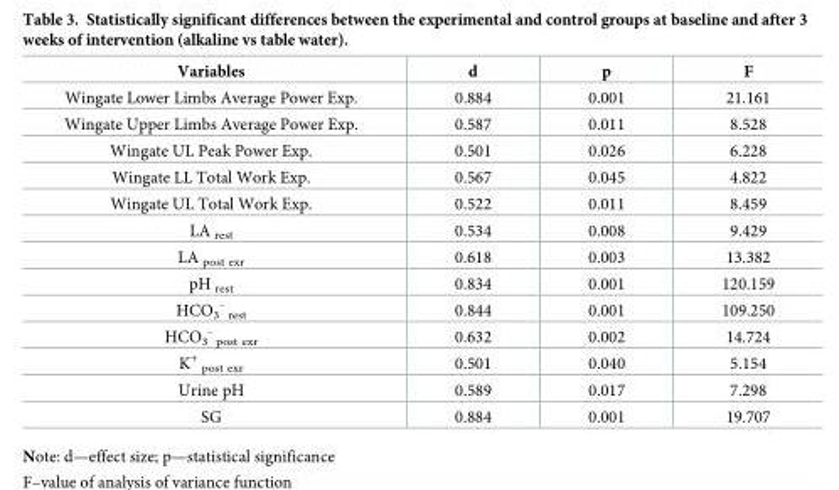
<table><thead><tr><td>Variables</td><td>d</td><td>p</td><td>F</td></tr></thead><tbody><tr><td>Wingate Lower Limbs Average Power Exp.</td><td>0.884</td><td>0.001</td><td>21.161</td></tr><tr><td>Wingate Upper Limbs Average Power Exp.</td><td>0.587</td><td>0.011</td><td>8.528</td></tr><tr><td>Wingate UL Peak Power Exp.</td><td>0.501</td><td>0.026</td><td>6.228</td></tr><tr><td>Wingate LL Total Work Exp.</td><td>0.567</td><td>0.045</td><td>4.822</td></tr><tr><td>Wingate UL Total Work Exp.</td><td>0.522</td><td>0.011</td><td>8.459</td></tr><tr><td>LA <sub>rest</sub></td><td>0.534</td><td>0.008</td><td>9.429</td></tr><tr><td>LA <sub>post exr</sub></td><td>0.618</td><td>0.003</td><td>13.382</td></tr><tr><td>pH <sub>rest</sub></td><td>0.834</td><td>0.001</td><td>120.159</td></tr><tr><td>HCO<sub>3</sub> <sup>-</sup> <sub>rest</sub></td><td>0.844</td><td>0.001</td><td>109.250</td></tr><tr><td>HCO<sub>3</sub> <sup>-</sup> <sub>post exr</sub></td><td>0.632</td><td>0.002</td><td>14.724</td></tr><tr><td>K<sup>+</sup> <sub>post exr</sub></td><td>0.501</td><td>0.040</td><td>5.154</td></tr><tr><td>Urine pH</td><td>0.589</td><td>0.017</td><td>7.298</td></tr><tr><td>SG</td><td>0.884</td><td>0.001</td><td>19.707</td></tr></tbody></table>